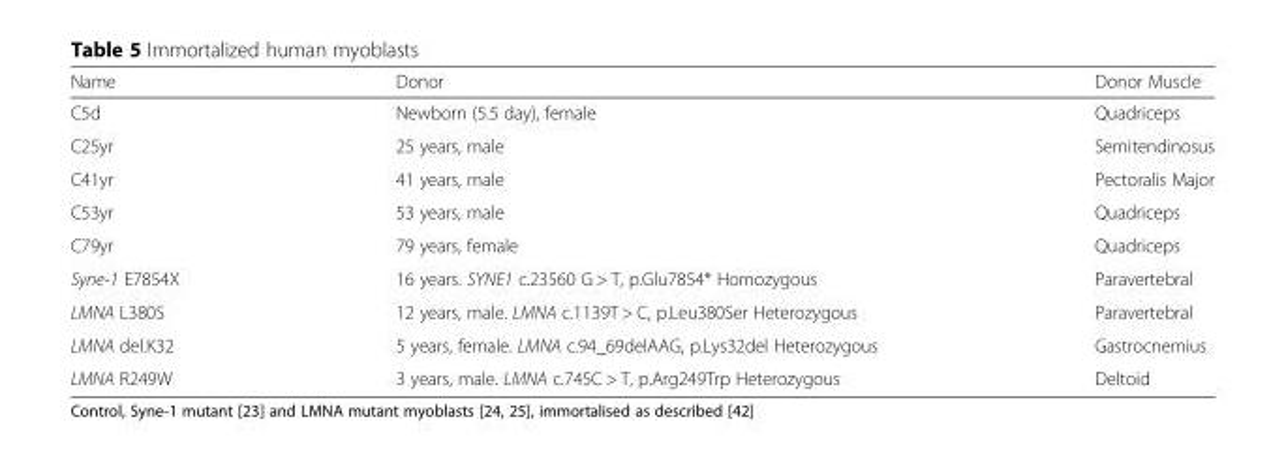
<table><thead><tr><td>Name</td><td>Donor</td><td>Donor Muscle</td></tr></thead><tbody><tr><td>C5d</td><td>Newborn (5.5 day), female</td><td>Quadriceps</td></tr><tr><td>C25yr</td><td>25 years, male</td><td>Semitendinosus</td></tr><tr><td>C41yr</td><td>41 years, male</td><td>Pectoralis Major</td></tr><tr><td>C53yr</td><td>53 years, male</td><td>Quadriceps</td></tr><tr><td>C79yr</td><td>79 years, female</td><td>Quadriceps</td></tr><tr><td>Syne-1 E7854X</td><td>16 years. SYNE1 c.23560 G &gt; T, p.Glu7854* Homozygous</td><td>Paravertebral</td></tr><tr><td>LMNA L380S</td><td>12 years, male. LMNA c.1139T &gt; C, p.Leu380Ser Heterozygous</td><td>Paravertebral</td></tr><tr><td>LMNA del.K32</td><td>5 years, female. LMNA c.94_69delAAG, p.Lys32del Heterozygous</td><td>Gastrocnemius</td></tr><tr><td>LMNA R249W</td><td>3 years, male. LMNA c.745C &gt; T, p.Arg249Trp Heterozygous</td><td>Deltoid</td></tr></tbody></table>